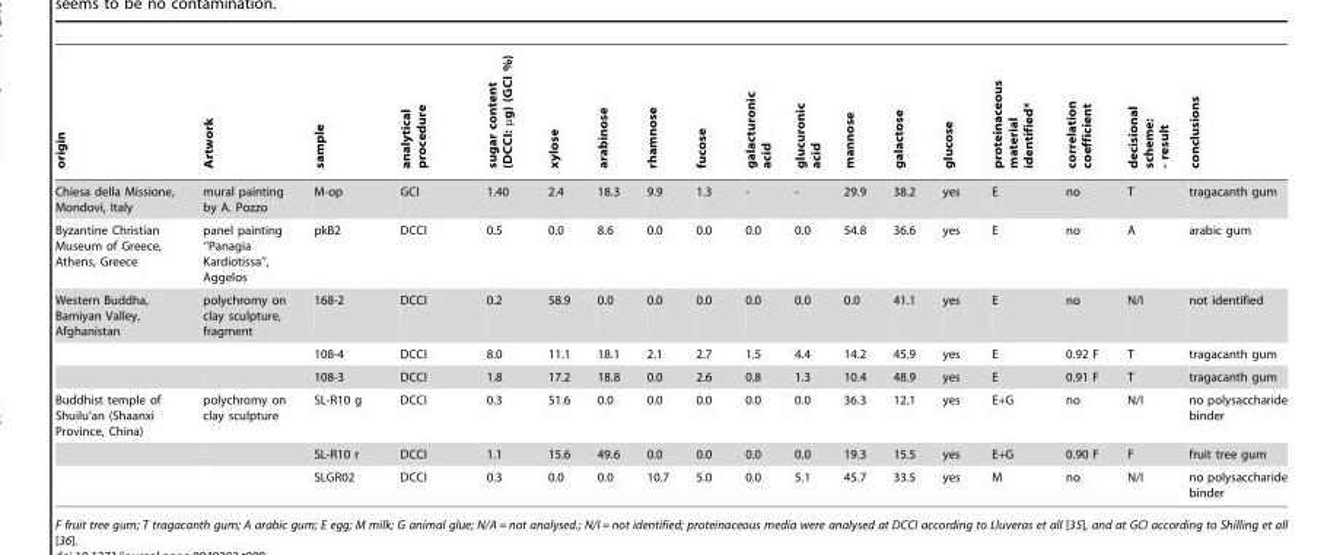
<table><thead><tr><td>origin</td><td>Artwork</td><td>sample</td><td>analytical procedure</td><td>sugar content (DCCI: µg) (GCI %)</td><td>xylose</td><td>arabinose</td><td>rhamnose</td><td>fucose</td><td>galacturonic acid</td><td>glucuronic acid</td><td>mannose</td><td>galactose</td><td>glucose</td><td>proteinaceous material identified*</td><td>correlation coefficient</td><td>decisional scheme: - result</td><td>conclusions</td></tr></thead><tbody><tr><td>Chiesa della Missione, Mondovi, Italy</td><td>mural painting by A. Pozzo</td><td>M-op</td><td>GCI</td><td>1.40</td><td>2.4</td><td>18.3</td><td>9.9</td><td>1.3</td><td>-</td><td>-</td><td>29.9</td><td>38.2</td><td>yes</td><td>E</td><td>no</td><td>T</td><td>tragacanth gum</td></tr><tr><td>Byzantine Christian Museum of Greece, Athens, Greece</td><td>panel painting ‘‘Panagia Kardiotissa’’, Aggelos</td><td>pkB2</td><td>DCCI</td><td>0.5</td><td>0.0</td><td>8.6</td><td>0.0</td><td>0.0</td><td>0.0</td><td>0.0</td><td>54.8</td><td>36.6</td><td>yes</td><td>E</td><td>no</td><td>A</td><td>arabic gum</td></tr><tr><td rowspan="3">Western Buddha, Bamiyan Valley, Afghanistan</td><td>polychromy on clay sculpture, fragment</td><td>168-2</td><td>DCCI</td><td>0.2</td><td>58.9</td><td>0.0</td><td>0.0</td><td>0.0</td><td>0.0</td><td>0.0</td><td>0.0</td><td>41.1</td><td>yes</td><td>E</td><td>no</td><td>N/I</td><td>not identified</td></tr><tr><td></td><td>108-4</td><td>DCCI</td><td>8.0</td><td>11.1</td><td>18.1</td><td>2.1</td><td>2.7</td><td>1.5</td><td>4.4</td><td>14.2</td><td>45.9</td><td>yes</td><td>E</td><td>0.92 F</td><td>T</td><td>tragacanth gum</td></tr><tr><td></td><td>108-3</td><td>DCCI</td><td>1.8</td><td>17.2</td><td>18.8</td><td>0.0</td><td>2.6</td><td>0.8</td><td>1.3</td><td>10.4</td><td>48.9</td><td>yes</td><td>E</td><td>0.91 F</td><td>T</td><td>tragacanth gum</td></tr><tr><td rowspan="3">Buddhist temple of Shuilu’an (Shaanxi Province, China)</td><td>polychromy on clay sculpture</td><td>SL-R10 g</td><td>DCCI</td><td>0.3</td><td>51.6</td><td>0.0</td><td>0.0</td><td>0.0</td><td>0.0</td><td>0.0</td><td>36.3</td><td>12.1</td><td>yes</td><td>E+G</td><td>no</td><td>N/I</td><td>no polysaccharide binder</td></tr><tr><td></td><td>SL-R10 r</td><td>DCCI</td><td>1.1</td><td>15.6</td><td>49.6</td><td>0.0</td><td>0.0</td><td>0.0</td><td>0.0</td><td>19.3</td><td>15.5</td><td>yes</td><td>E+G</td><td>0.90 F</td><td>F</td><td>fruit tree gum</td></tr><tr><td></td><td>SLGR02</td><td>DCCI</td><td>0.3</td><td>0.0</td><td>0.0</td><td>10.7</td><td>5.0</td><td>0.0</td><td>5.1</td><td>45.7</td><td>33.5</td><td>yes</td><td>M</td><td>no</td><td>N/I</td><td>no polysaccharide binder</td></tr></tbody></table>